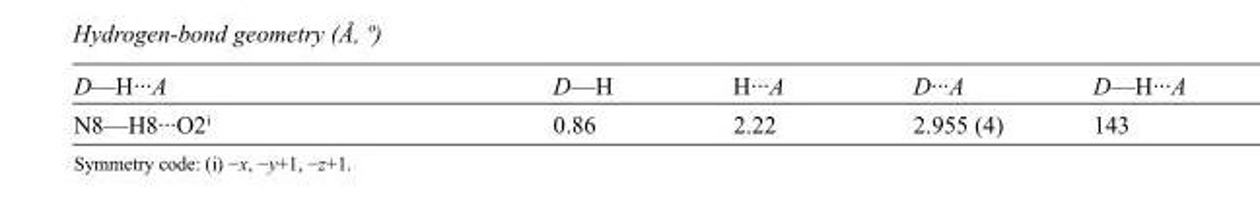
<table><tbody><tr><td>D—H···A</td><td>D—H</td><td>H···A</td><td>D···A</td><td>D—H···A</td></tr><tr><td>N8—H8···O2<sup>i</sup></td><td>0.86</td><td>2.22</td><td>2.955 (4)</td><td>143</td></tr></tbody></table>